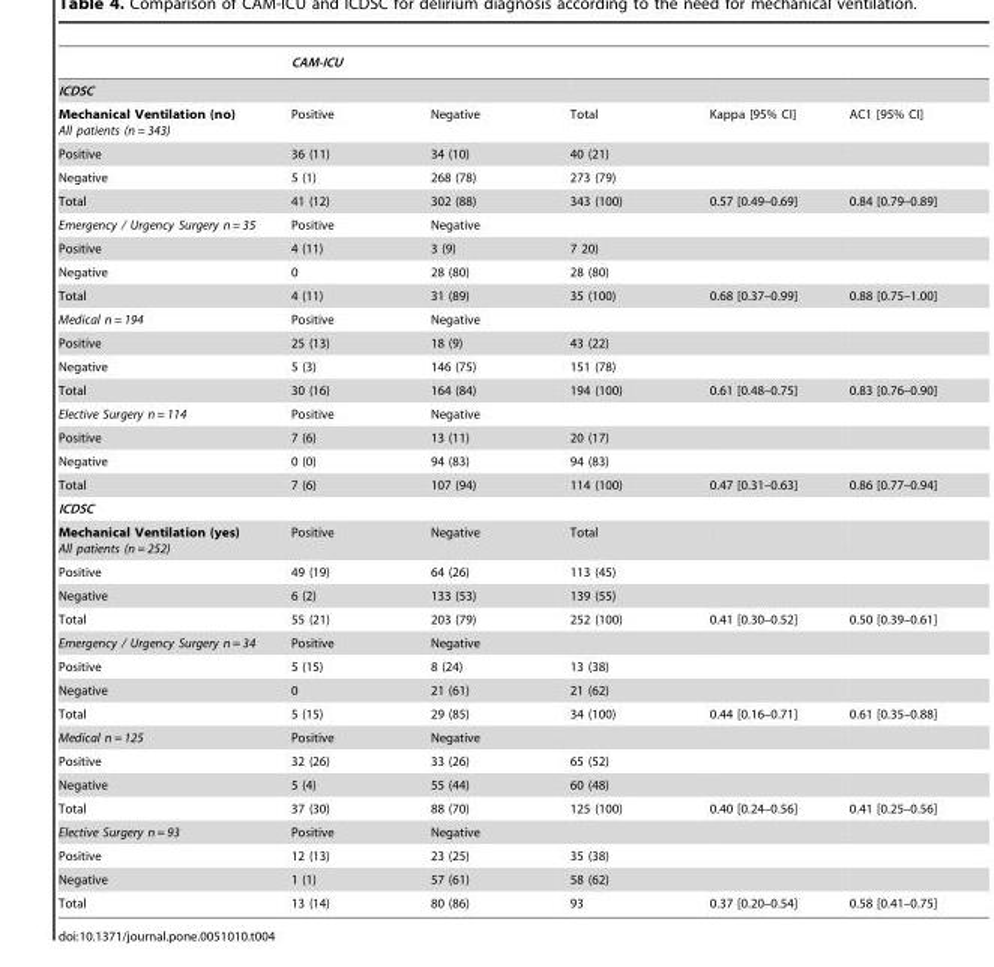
<table><thead><tr><td rowspan="2">ICDSC</td><td colspan="2">CAM-ICU</td><td rowspan="2"></td><td rowspan="2"></td><td rowspan="2"></td></tr><tr><td></td><td></td></tr></thead><tbody><tr><td>Mechanical Ventilation (no) All patients (n = 343)</td><td>Positive</td><td>Negative</td><td>Total</td><td>Kappa [95% CI]</td><td>AC1 [95% CI]</td></tr><tr><td>Positive</td><td>36 (11)</td><td>34 (10)</td><td>40 (21)</td><td></td><td></td></tr><tr><td>Negative</td><td>5 (1)</td><td>268 (78)</td><td>273 (79)</td><td></td><td></td></tr><tr><td>Total</td><td>41 (12)</td><td>302 (88)</td><td>343 (100)</td><td>0.57 [0.49–0.69]</td><td>0.84 [0.79–0.89]</td></tr><tr><td>Emergency / Urgency Surgery n = 35</td><td>Positive</td><td>Negative</td><td></td><td></td><td></td></tr><tr><td>Positive</td><td>4 (11)</td><td>3 (9)</td><td>7 20)</td><td></td><td></td></tr><tr><td>Negative</td><td>0</td><td>28 (80)</td><td>28 (80)</td><td></td><td></td></tr><tr><td>Total</td><td>4 (11)</td><td>31 (89)</td><td>35 (100)</td><td>0.68 [0.37–0.99]</td><td>0.88 [0.75–1.00]</td></tr><tr><td>Medical n = 194</td><td>Positive</td><td>Negative</td><td></td><td></td><td></td></tr><tr><td>Positive</td><td>25 (13)</td><td>18 (9)</td><td>43 (22)</td><td></td><td></td></tr><tr><td>Negative</td><td>5 (3)</td><td>146 (75)</td><td>151 (78)</td><td></td><td></td></tr><tr><td>Total</td><td>30 (16)</td><td>164 (84)</td><td>194 (100)</td><td>0.61 [0.48–0.75]</td><td>0.83 [0.76–0.90]</td></tr><tr><td>Elective Surgery n = 114</td><td>Positive</td><td>Negative</td><td></td><td></td><td></td></tr><tr><td>Positive</td><td>7 (6)</td><td>13 (11)</td><td>20 (17)</td><td></td><td></td></tr><tr><td>Negative</td><td>0 (0)</td><td>94 (83)</td><td>94 (83)</td><td></td><td></td></tr><tr><td>Total</td><td>7 (6)</td><td>107 (94)</td><td>114 (100)</td><td>0.47 [0.31–0.63]</td><td>0.86 [0.77–0.94]</td></tr><tr><td colspan="6">ICDSC</td></tr><tr><td>Mechanical Ventilation (yes) All patients (n = 252)</td><td>Positive</td><td>Negative</td><td>Total</td><td></td><td></td></tr><tr><td>Positive</td><td>49 (19)</td><td>64 (26)</td><td>113 (45)</td><td></td><td></td></tr><tr><td>Negative</td><td>6 (2)</td><td>133 (53)</td><td>139 (55)</td><td></td><td></td></tr><tr><td>Total</td><td>55 (21)</td><td>203 (79)</td><td>252 (100)</td><td>0.41 [0.30–0.52]</td><td>0.50 [0.39–0.61]</td></tr><tr><td>Emergency / Urgency Surgery n = 34</td><td>Positive</td><td>Negative</td><td></td><td></td><td></td></tr><tr><td>Positive</td><td>5 (15)</td><td>8 (24)</td><td>13 (38)</td><td></td><td></td></tr><tr><td>Negative</td><td>0</td><td>21 (61)</td><td>21 (62)</td><td></td><td></td></tr><tr><td>Total</td><td>5 (15)</td><td>29 (85)</td><td>34 (100)</td><td>0.44 [0.16–0.71]</td><td>0.61 [0.35–0.88]</td></tr><tr><td>Medical n = 125</td><td>Positive</td><td>Negative</td><td></td><td></td><td></td></tr><tr><td>Positive</td><td>32 (26)</td><td>33 (26)</td><td>65 (52)</td><td></td><td></td></tr><tr><td>Negative</td><td>5 (4)</td><td>55 (44)</td><td>60 (48)</td><td></td><td></td></tr><tr><td>Total</td><td>37 (30)</td><td>88 (70)</td><td>125 (100)</td><td>0.40 [0.24–0.56]</td><td>0.41 [0.25–0.56]</td></tr><tr><td>Elective Surgery n = 93</td><td>Positive</td><td>Negative</td><td></td><td></td><td></td></tr><tr><td>Positive</td><td>12 (13)</td><td>23 (25)</td><td>35 (38)</td><td></td><td></td></tr><tr><td>Negative</td><td>1 (1)</td><td>57 (61)</td><td>58 (62)</td><td></td><td></td></tr><tr><td>Total</td><td>13 (14)</td><td>80 (86)</td><td>93</td><td>0.37 [0.20–0.54]</td><td>0.58 [0.41–0.75]</td></tr></tbody></table>